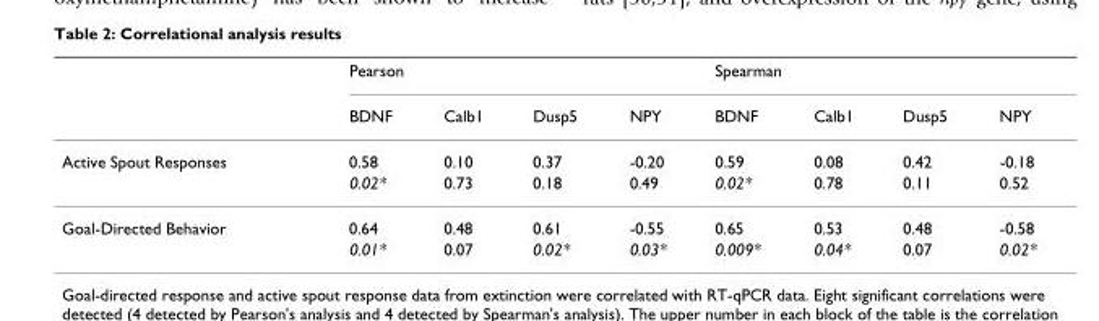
<table><thead><tr><td rowspan="2"></td><td colspan="4">Pearson</td><td colspan="4">Spearman</td></tr><tr><td>BDNF</td><td>Calb1</td><td>Dusp5</td><td>NPY</td><td>BDNF</td><td>Calb1</td><td>Dusp5</td><td>NPY</td></tr></thead><tbody><tr><td rowspan="2">Active Spout Responses</td><td>0.58</td><td>0.10</td><td>0.37</td><td>-0.20</td><td>0.59</td><td>0.08</td><td>0.42</td><td>-0.18</td></tr><tr><td>0.02*</td><td>0.73</td><td>0.18</td><td>0.49</td><td>0.02*</td><td>0.78</td><td>0.11</td><td>0.52</td></tr><tr><td rowspan="2">Goal-Directed Behavior</td><td>0.64</td><td>0.48</td><td>0.61</td><td>-0.55</td><td>0.65</td><td>0.53</td><td>0.48</td><td>-0.58</td></tr><tr><td>0.01*</td><td>0.07</td><td>0.02*</td><td>0.03*</td><td>0.009*</td><td>0.04*</td><td>0.07</td><td>0.02*</td></tr></tbody></table>